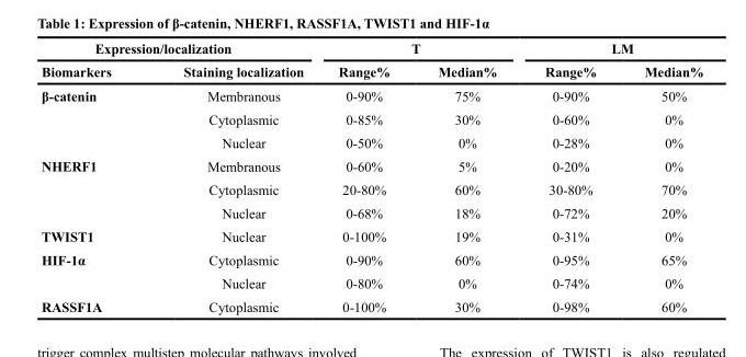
<table><thead><tr><td colspan="2">Expression/localization</td><td colspan="2">T</td><td colspan="2">LM</td></tr><tr><td>Biomarkers</td><td>Staining localization</td><td>Range%</td><td>Median%</td><td>Range%</td><td>Median%</td></tr></thead><tbody><tr><td rowspan="3">β-catenin</td><td>Membranous</td><td>0-90%</td><td>75%</td><td>0-90%</td><td>50%</td></tr><tr><td>Cytoplasmic</td><td>0-85%</td><td>30%</td><td>0-60%</td><td>0%</td></tr><tr><td>Nuclear</td><td>0-50%</td><td>0%</td><td>0-28%</td><td>0%</td></tr><tr><td rowspan="3">NHERF1</td><td>Membranous</td><td>0-60%</td><td>5%</td><td>0-20%</td><td>0%</td></tr><tr><td>Cytoplasmic</td><td>20-80%</td><td>60%</td><td>30-80%</td><td>70%</td></tr><tr><td>Nuclear</td><td>0-68%</td><td>18%</td><td>0-72%</td><td>20%</td></tr><tr><td>TWIST1</td><td>Nuclear</td><td>0-100%</td><td>19%</td><td>0-31%</td><td>0%</td></tr><tr><td rowspan="2">HIF-1α</td><td>Cytoplasmic</td><td>0-90%</td><td>60%</td><td>0-95%</td><td>65%</td></tr><tr><td>Nuclear</td><td>0-80%</td><td>0%</td><td>0-74%</td><td>0%</td></tr><tr><td>RASSF1A</td><td>Cytoplasmic</td><td>0-100%</td><td>30%</td><td>0-98%</td><td>60%</td></tr></tbody></table>